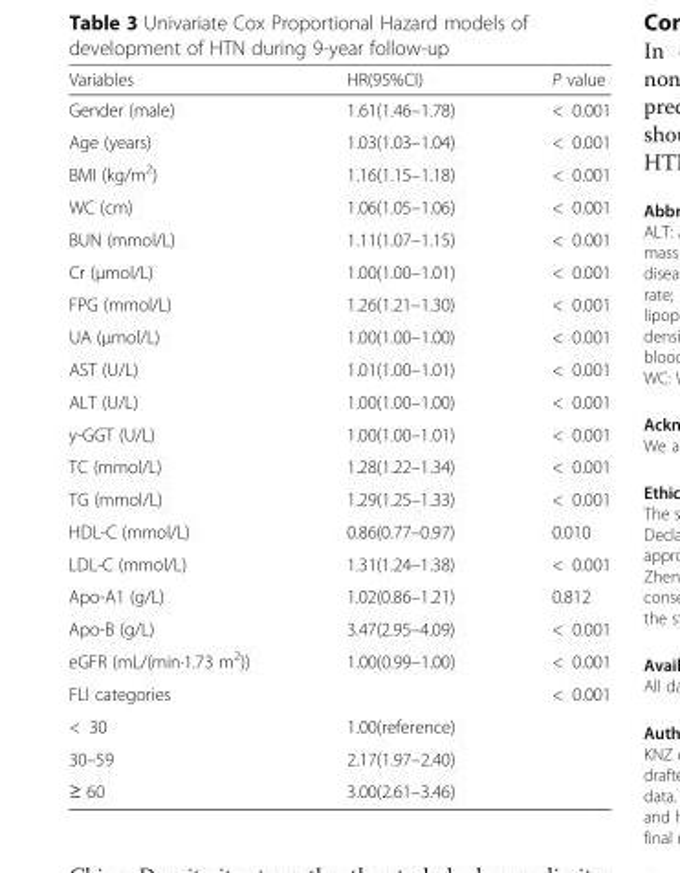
<table><thead><tr><td>Variables</td><td>HR(95%CI)</td><td>P value</td></tr></thead><tbody><tr><td>Gender (male)</td><td>1.61(1.46–1.78)</td><td>&lt; 0.001</td></tr><tr><td>Age (years)</td><td>1.03(1.03–1.04)</td><td>&lt; 0.001</td></tr><tr><td>BMI (kg/m2)</td><td>1.16(1.15–1.18)</td><td>&lt; 0.001</td></tr><tr><td>WC (cm)</td><td>1.06(1.05–1.06)</td><td>&lt; 0.001</td></tr><tr><td>BUN (mmol/L)</td><td>1.11(1.07–1.15)</td><td>&lt; 0.001</td></tr><tr><td>Cr (μmol/L)</td><td>1.00(1.00–1.01)</td><td>&lt; 0.001</td></tr><tr><td>FPG (mmol/L)</td><td>1.26(1.21–1.30)</td><td>&lt; 0.001</td></tr><tr><td>UA (μmol/L)</td><td>1.00(1.00–1.00)</td><td>&lt; 0.001</td></tr><tr><td>AST (U/L)</td><td>1.01(1.00–1.01)</td><td>&lt; 0.001</td></tr><tr><td>ALT (U/L)</td><td>1.00(1.00–1.00)</td><td>&lt; 0.001</td></tr><tr><td>y-GGT (U/L)</td><td>1.00(1.00–1.01)</td><td>&lt; 0.001</td></tr><tr><td>TC (mmol/L)</td><td>1.28(1.22–1.34)</td><td>&lt; 0.001</td></tr><tr><td>TG (mmol/L)</td><td>1.29(1.25–1.33)</td><td>&lt; 0.001</td></tr><tr><td>HDL-C (mmol/L)</td><td>0.86(0.77–0.97)</td><td>0.010</td></tr><tr><td>LDL-C (mmol/L)</td><td>1.31(1.24–1.38)</td><td>&lt; 0.001</td></tr><tr><td>Apo-A1 (g/L)</td><td>1.02(0.86–1.21)</td><td>0.812</td></tr><tr><td>Apo-B (g/L)</td><td>3.47(2.95–4.09)</td><td>&lt; 0.001</td></tr><tr><td>eGFR (mL/(min·1.73 m2))</td><td>1.00(0.99–1.00)</td><td>&lt; 0.001</td></tr><tr><td>FLI categories</td><td></td><td>&lt; 0.001</td></tr><tr><td>&lt; 30</td><td>1.00(reference)</td><td></td></tr><tr><td>30–59</td><td>2.17(1.97–2.40)</td><td></td></tr><tr><td>≥ 60</td><td>3.00(2.61–3.46)</td><td></td></tr></tbody></table>